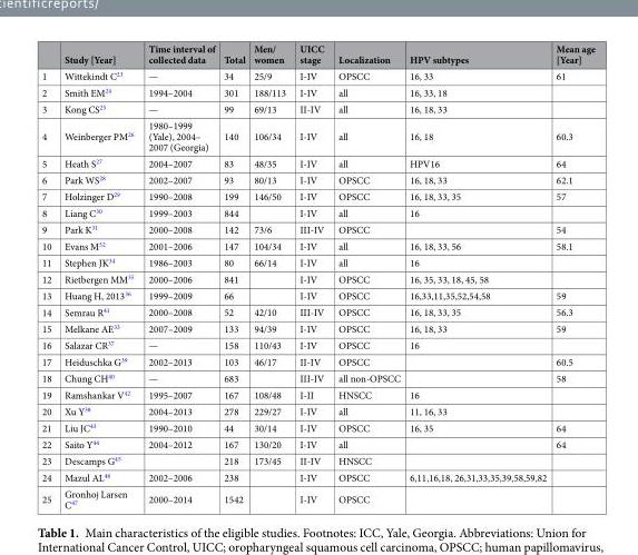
<table><thead><tr><td></td><td>Study [Year]</td><td>Time interval of collected data</td><td>Total</td><td>Men/ women</td><td>UICC stage</td><td>Localization</td><td>HPV subtypes</td><td>Mean age [Year]</td></tr></thead><tbody><tr><td>1</td><td>Wittekindt C<sup>23</sup></td><td>—</td><td>34</td><td>25/9</td><td>I-IV</td><td>OPSCC</td><td>16, 33</td><td>61</td></tr><tr><td>2</td><td>Smith EM<sup>24</sup></td><td>1994–2004</td><td>301</td><td>188/113</td><td>I-IV</td><td>all</td><td>16, 33, 18</td><td></td></tr><tr><td>3</td><td>Kong CS<sup>25</sup></td><td>—</td><td>99</td><td>69/13</td><td>II-IV</td><td>all</td><td>16, 18, 33</td><td></td></tr><tr><td>4</td><td>Weinberger PM<sup>26</sup></td><td>1980–1999 (Yale), 2004– 2007 (Georgia)</td><td>140</td><td>106/34</td><td>I-IV</td><td>all</td><td>16, 18</td><td>60.3</td></tr><tr><td>5</td><td>Heath S<sup>27</sup></td><td>2004–2007</td><td>83</td><td>48/35</td><td>I-IV</td><td>all</td><td>HPV16</td><td>64</td></tr><tr><td>6</td><td>Park WS<sup>28</sup></td><td>2002–2007</td><td>93</td><td>80/13</td><td>I-IV</td><td>OPSCC</td><td>16, 18, 33</td><td>62.1</td></tr><tr><td>7</td><td>Holzinger D<sup>29</sup></td><td>1990–2008</td><td>199</td><td>146/50</td><td>I-IV</td><td>OPSCC</td><td>16, 18, 33, 35</td><td>57</td></tr><tr><td>8</td><td>Liang C<sup>30</sup></td><td>1999–2003</td><td>844</td><td></td><td>I-IV</td><td>all</td><td>16</td><td></td></tr><tr><td>9</td><td>Park K<sup>31</sup></td><td>2000–2008</td><td>142</td><td>73/6</td><td>III-IV</td><td>OPSCC</td><td></td><td>54</td></tr><tr><td>10</td><td>Evans M<sup>32</sup></td><td>2001–2006</td><td>147</td><td>104/34</td><td>I-IV</td><td>all</td><td>16, 18, 33, 56</td><td>58.1</td></tr><tr><td>11</td><td>Stephen JK<sup>34</sup></td><td>1986–2003</td><td>80</td><td>66/14</td><td>I-IV</td><td>all</td><td>16</td><td></td></tr><tr><td>12</td><td>Rietbergen MM<sup>35</sup></td><td>2000–2006</td><td>841</td><td></td><td>I-IV</td><td>OPSCC</td><td>16, 35, 33, 18, 45, 58</td><td></td></tr><tr><td>13</td><td>Huang H, 2013<sup>36</sup></td><td>1999–2009</td><td>66</td><td></td><td>I-IV</td><td>OPSCC</td><td>16,33,11,35,52,54,58</td><td>59</td></tr><tr><td>14</td><td>Semrau R<sup>41</sup></td><td>2000–2008</td><td>52</td><td>42/10</td><td>III-IV</td><td>OPSCC</td><td>16, 18, 33, 35</td><td>56.3</td></tr><tr><td>15</td><td>Melkane AE<sup>33</sup></td><td>2007–2009</td><td>133</td><td>94/39</td><td>I-IV</td><td>OPSCC</td><td>16, 18, 33</td><td>59</td></tr><tr><td>16</td><td>Salazar CR<sup>37</sup></td><td>—</td><td>158</td><td>110/43</td><td>I-IV</td><td>OPSCC</td><td>16</td><td></td></tr><tr><td>17</td><td>Heiduschka G<sup>39</sup></td><td>2002–2013</td><td>103</td><td>46/17</td><td>II-IV</td><td>OPSCC</td><td></td><td>60.5</td></tr><tr><td>18</td><td>Chung CH<sup>40</sup></td><td>—</td><td>683</td><td></td><td>III-IV</td><td>all non-OPSCC</td><td></td><td>58</td></tr><tr><td>19</td><td>Ramshankar V<sup>42</sup></td><td>1995–2007</td><td>167</td><td>108/48</td><td>I-II</td><td>HNSCC</td><td>16</td><td></td></tr><tr><td>20</td><td>Xu Y<sup>38</sup></td><td>2004–2013</td><td>278</td><td>229/27</td><td>I-IV</td><td>all</td><td>11, 16, 33</td><td></td></tr><tr><td>21</td><td>Liu JC<sup>43</sup></td><td>1990–2010</td><td>44</td><td>30/14</td><td>I-IV</td><td>OPSCC</td><td>16, 35</td><td>64</td></tr><tr><td>22</td><td>Saito Y<sup>44</sup></td><td>2004–2012</td><td>167</td><td>130/20</td><td>I-IV</td><td>all</td><td></td><td>64</td></tr><tr><td>23</td><td>Descamps G<sup>45</sup></td><td></td><td>218</td><td>173/45</td><td>II-IV</td><td>HNSCC</td><td></td><td></td></tr><tr><td>24</td><td>Mazul AL<sup>46</sup></td><td>2002–2006</td><td>238</td><td></td><td>I-IV</td><td>OPSCC</td><td>6,11,16,18, 26,31,33,35,39,58,59,82</td><td></td></tr><tr><td>25</td><td>Gronhoj Larsen C<sup>47</sup></td><td>2000–2014</td><td>1542</td><td></td><td>I-IV</td><td>OPSCC</td><td></td><td></td></tr></tbody></table>